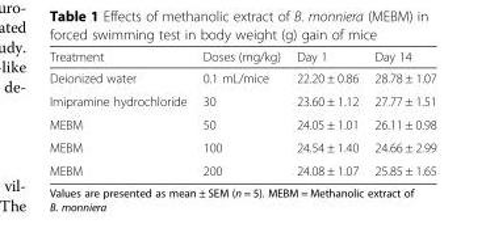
<table><thead><tr><td>Treatment</td><td>Doses (mg/kg)</td><td>Day 1</td><td>Day 14</td></tr></thead><tbody><tr><td>Deionized water</td><td>0.1 mL/mice</td><td>22.20 ± 0.86</td><td>28.78 ± 1.07</td></tr><tr><td>Imipramine hydrochloride</td><td>30</td><td>23.60 ± 1.12</td><td>27.77 ± 1.51</td></tr><tr><td>MEBM</td><td>50</td><td>24.05 ± 1.01</td><td>26.11 ± 0.98</td></tr><tr><td>MEBM</td><td>100</td><td>24.54 ± 1.40</td><td>24.66 ± 2.99</td></tr><tr><td>MEBM</td><td>200</td><td>24.08 ± 1.07</td><td>25.85 ± 1.65</td></tr></tbody></table>